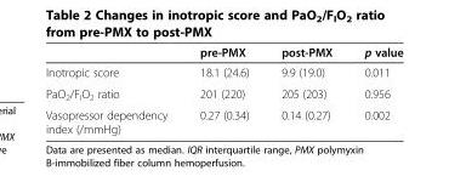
<table><thead><tr><td></td><td>pre-PMX</td><td>post-PMX</td><td>p value</td></tr></thead><tbody><tr><td>Inotropic score</td><td>18.1 (24.6)</td><td>9.9 (19.0)</td><td>0.011</td></tr><tr><td>PaO<sub>2</sub>/F<sub>I</sub>O<sub>2</sub> ratio</td><td>201 (220)</td><td>205 (203)</td><td>0.956</td></tr><tr><td>Vasopressor dependency index (/mmHg)</td><td>0.27 (0.34)</td><td>0.14 (0.27)</td><td>0.002</td></tr></tbody></table>